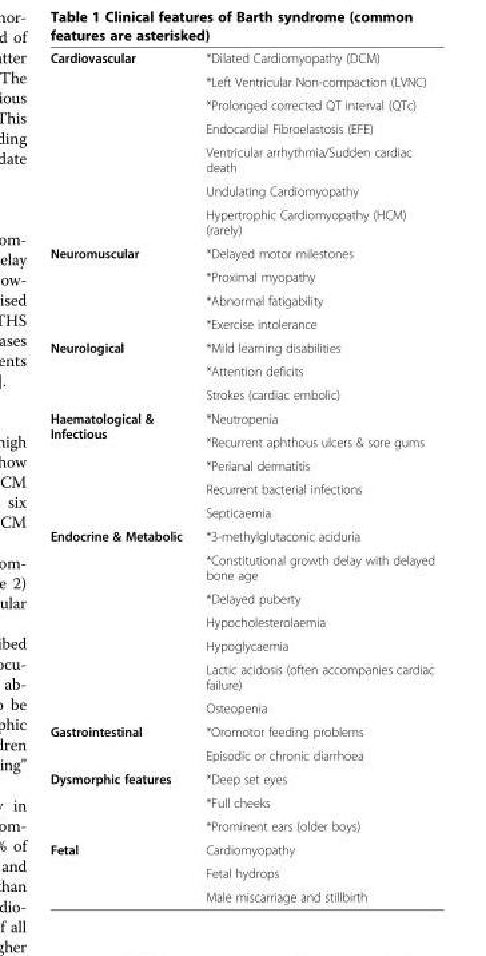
<table><tbody><tr><td rowspan="7">Cardiovascular</td><td>*Dilated Cardiomyopathy (DCM)</td></tr><tr><td>*Left Ventricular Non-compaction (LVNC)</td></tr><tr><td>*Prolonged corrected QT interval (QTc)</td></tr><tr><td>Endocardial Fibroelastosis (EFE)</td></tr><tr><td>Ventricular arrhythmia/Sudden cardiac death</td></tr><tr><td>Undulating Cardiomyopathy</td></tr><tr><td>Hypertrophic Cardiomyopathy (HCM) (rarely)</td></tr><tr><td rowspan="4">Neuromuscular</td><td>*Delayed motor milestones</td></tr><tr><td>*Proximal myopathy</td></tr><tr><td>*Abnormal fatigability</td></tr><tr><td>*Exercise intolerance</td></tr><tr><td rowspan="3">Neurological</td><td>*Mild learning disabilities</td></tr><tr><td>*Attention deficits</td></tr><tr><td>Strokes (cardiac embolic)</td></tr><tr><td rowspan="5">Haematological &amp; Infectious</td><td>*Neutropenia</td></tr><tr><td>*Recurrent aphthous ulcers &amp; sore gums</td></tr><tr><td>*Perianal dermatitis</td></tr><tr><td>Recurrent bacterial infections</td></tr><tr><td>Septicaemia</td></tr><tr><td rowspan="7">Endocrine &amp; Metabolic</td><td>*3-methylglutaconic aciduria</td></tr><tr><td>*Constitutional growth delay with delayed bone age</td></tr><tr><td>*Delayed puberty</td></tr><tr><td>Hypocholesterolaemia</td></tr><tr><td>Hypoglycaemia</td></tr><tr><td>Lactic acidosis (often accompanies cardiac failure)</td></tr><tr><td>Osteopenia</td></tr><tr><td rowspan="2">Gastrointestinal</td><td>*Oromotor feeding problems</td></tr><tr><td>Episodic or chronic diarrhoea</td></tr><tr><td rowspan="3">Dysmorphic features</td><td>*Deep set eyes</td></tr><tr><td>*Full cheeks</td></tr><tr><td>*Prominent ears (older boys)</td></tr><tr><td rowspan="3">Fetal</td><td>Cardiomyopathy</td></tr><tr><td>Fetal hydrops</td></tr><tr><td>Male miscarriage and stillbirth</td></tr></tbody></table>